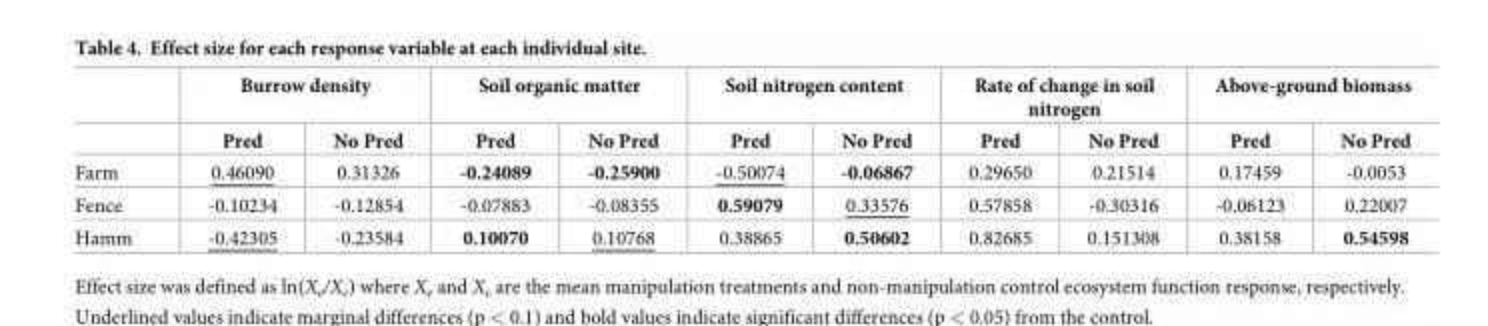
<table><thead><tr><td rowspan="2"></td><td colspan="2">Burrow density</td><td colspan="2">Soil organic matter</td><td colspan="2">Soil nitrogen content</td><td colspan="2">Rate of change in soil nitrogen</td><td colspan="2">Above-ground biomass</td></tr><tr><td>Pred</td><td>No Pred</td><td>Pred</td><td>No Pred</td><td>Pred</td><td>No Pred</td><td>Pred</td><td>No Pred</td><td>Pred</td><td>No Pred</td></tr></thead><tbody><tr><td>Farm</td><td>0.46090</td><td>0.31326</td><td>-0.24089</td><td>-0.25900</td><td>-0.50074</td><td>-0.06867</td><td>0.29650</td><td>0.21514</td><td>0.17459</td><td>-0.0053</td></tr><tr><td>Fence</td><td>-0.10234</td><td>-0.12854</td><td>-0.07883</td><td>-0.08355</td><td>0.59079</td><td>0.33576</td><td>0.57858</td><td>-0.30316</td><td>-0.06123</td><td>0.22007</td></tr><tr><td>Hamm</td><td>-0.42305</td><td>-0.23584</td><td>0.10070</td><td>0.10768</td><td>0.38865</td><td>0.50602</td><td>0.82685</td><td>0.151308</td><td>0.38158</td><td>0.54598</td></tr></tbody></table>